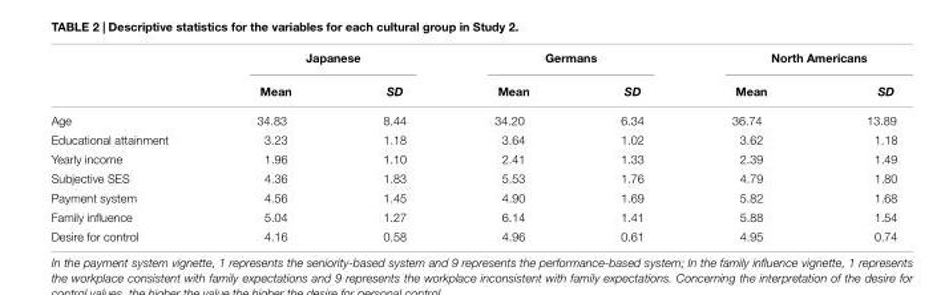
<table><thead><tr><td rowspan="2"></td><td colspan="2">Japanese</td><td colspan="2">Germans</td><td colspan="2">North Americans</td></tr><tr><td>Mean</td><td>SD</td><td>Mean</td><td>SD</td><td>Mean</td><td>SD</td></tr></thead><tbody><tr><td>Age</td><td>34.83</td><td>8.44</td><td>34.20</td><td>6.34</td><td>36.74</td><td>13.89</td></tr><tr><td>Educational attainment</td><td>3.23</td><td>1.18</td><td>3.64</td><td>1.02</td><td>3.62</td><td>1.18</td></tr><tr><td>Yearly income</td><td>1.96</td><td>1.10</td><td>2.41</td><td>1.33</td><td>2.39</td><td>1.49</td></tr><tr><td>Subjective SES</td><td>4.36</td><td>1.83</td><td>5.53</td><td>1.76</td><td>4.79</td><td>1.80</td></tr><tr><td>Payment system</td><td>4.56</td><td>1.45</td><td>4.90</td><td>1.69</td><td>5.82</td><td>1.68</td></tr><tr><td>Family influence</td><td>5.04</td><td>1.27</td><td>6.14</td><td>1.41</td><td>5.88</td><td>1.54</td></tr><tr><td>Desire for control</td><td>4.16</td><td>0.58</td><td>4.96</td><td>0.61</td><td>4.95</td><td>0.74</td></tr></tbody></table>